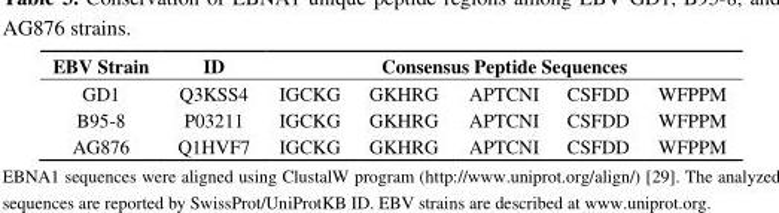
<table><thead><tr><td rowspan="2">EBV Strain GD1</td><td rowspan="2">ID Q3KSS4</td><td colspan="5">Consensus Peptide Sequences</td></tr><tr><td>IGCKG</td><td>GKHRG</td><td>APTCNI</td><td>CSFDD</td><td>WFPPM</td></tr></thead><tbody><tr><td>B95-8</td><td>P03211</td><td>IGCKG</td><td>GKHRG</td><td>APTCNI</td><td>CSFDD</td><td>WFPPM</td></tr><tr><td>AG876</td><td>Q1HVF7</td><td>IGCKG</td><td>GKHRG</td><td>APTCNI</td><td>CSFDD</td><td>WFPPM</td></tr></tbody></table>